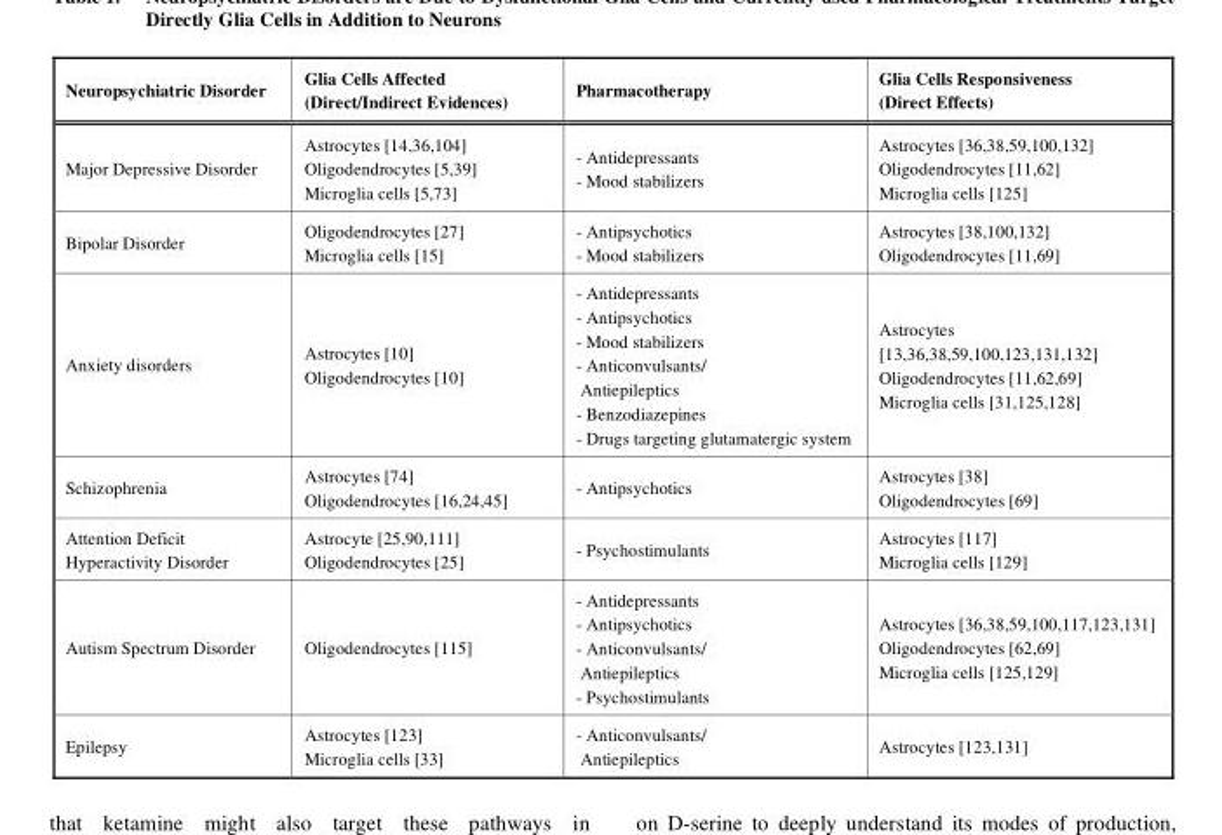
<table><thead><tr><td>Neuropsychiatric Disorder</td><td>Glia Cells Affected (Direct/Indirect Evidences)</td><td>Pharmacotherapy</td><td>Glia Cells Responsiveness (Direct Effects)</td></tr></thead><tbody><tr><td>Major Depressive Disorder</td><td>Astrocytes [14,36,104] Oligodendrocytes [5,39] Microglia cells [5,73]</td><td>- Antidepressants - Mood stabilizers</td><td>Astrocytes [36,38,59,100,132] Oligodendrocytes [11,62] Microglia cells [125]</td></tr><tr><td>Bipolar Disorder</td><td>Oligodendrocytes [27] Microglia cells [15]</td><td>- Antipsychotics - Mood stabilizers</td><td>Astrocytes [38,100,132] Oligodendrocytes [11,69]</td></tr><tr><td>Anxiety disorders</td><td>Astrocytes [10] Oligodendrocytes [10]</td><td>- Antidepressants - Antipsychotics - Mood stabilizers - Anticonvulsants/ Antiepileptics - Benzodiazepines - Drugs targeting glutamatergic system</td><td>Astrocytes [13,36,38,59,100,123,131,132] Oligodendrocytes [11,62,69] Microglia cells [31,125,128]</td></tr><tr><td>Schizophrenia</td><td>Astrocytes [74] Oligodendrocytes [16,24,45]</td><td>- Antipsychotics</td><td>Astrocytes [38] Oligodendrocytes [69]</td></tr><tr><td>Attention Deficit Hyperactivity Disorder</td><td>Astrocyte [25,90,111] Oligodendrocytes [25]</td><td>- Psychostimulants</td><td>Astrocytes [117] Microglia cells [129]</td></tr><tr><td>Autism Spectrum Disorder</td><td>Oligodendrocytes [115]</td><td>- Antidepressants - Antipsychotics - Anticonvulsants/ Antiepileptics - Psychostimulants</td><td>Astrocytes [36,38,59,100,117,123,131] Oligodendrocytes [62,69] Microglia cells [125,129]</td></tr><tr><td>Epilepsy</td><td>Astrocytes [123] Microglia cells [33]</td><td>- Anticonvulsants/ Antiepileptics</td><td>Astrocytes [123,131]</td></tr></tbody></table>